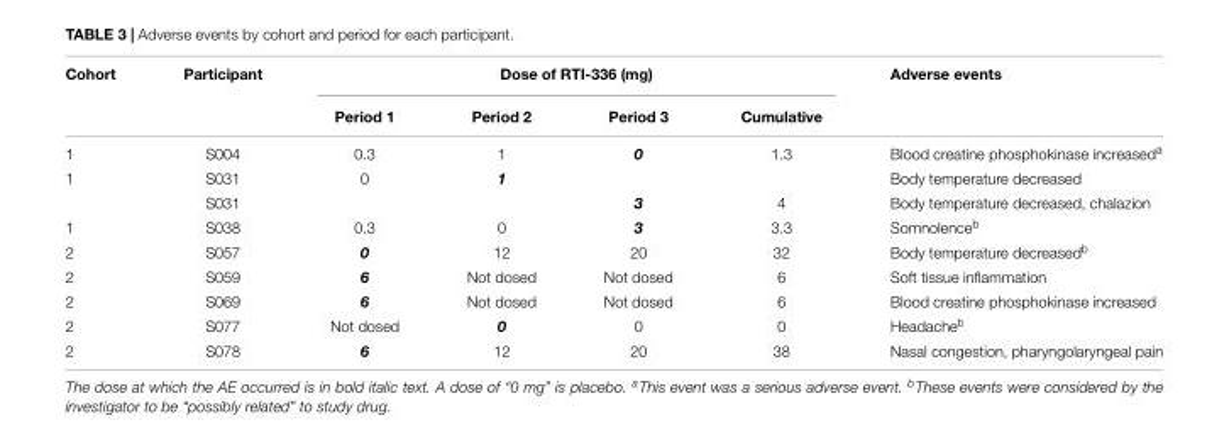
<table><thead><tr><td rowspan="2">Cohort</td><td rowspan="2">Participant</td><td colspan="4">Dose of RTI-336 (mg)</td><td rowspan="2">Adverse events</td></tr><tr><td>Period 1</td><td>Period 2</td><td>Period 3</td><td>Cumulative</td></tr></thead><tbody><tr><td>1</td><td>S004</td><td>0.3</td><td>1</td><td>0</td><td>1.3</td><td>Blood creatine phosphokinase increased<sup>a</sup></td></tr><tr><td rowspan="2">1</td><td>S031</td><td>0</td><td>1</td><td></td><td></td><td>Body temperature decreased</td></tr><tr><td>S031</td><td></td><td></td><td>3</td><td>4</td><td>Body temperature decreased, chalazion</td></tr><tr><td>1</td><td>S038</td><td>0.3</td><td>0</td><td>3</td><td>3.3</td><td>Somnolence<sup>b</sup></td></tr><tr><td>2</td><td>S057</td><td>0</td><td>12</td><td>20</td><td>32</td><td>Body temperature decreased<sup>b</sup></td></tr><tr><td>2</td><td>S059</td><td>6</td><td>Not dosed</td><td>Not dosed</td><td>6</td><td>Soft tissue inflammation</td></tr><tr><td>2</td><td>S069</td><td>6</td><td>Not dosed</td><td>Not dosed</td><td>6</td><td>Blood creatine phosphokinase increased</td></tr><tr><td>2</td><td>S077</td><td>Not dosed</td><td>0</td><td>0</td><td>0</td><td>Headache<sup>b</sup></td></tr><tr><td>2</td><td>S078</td><td>6</td><td>12</td><td>20</td><td>38</td><td>Nasal congestion, pharyngolaryngeal pain</td></tr></tbody></table>